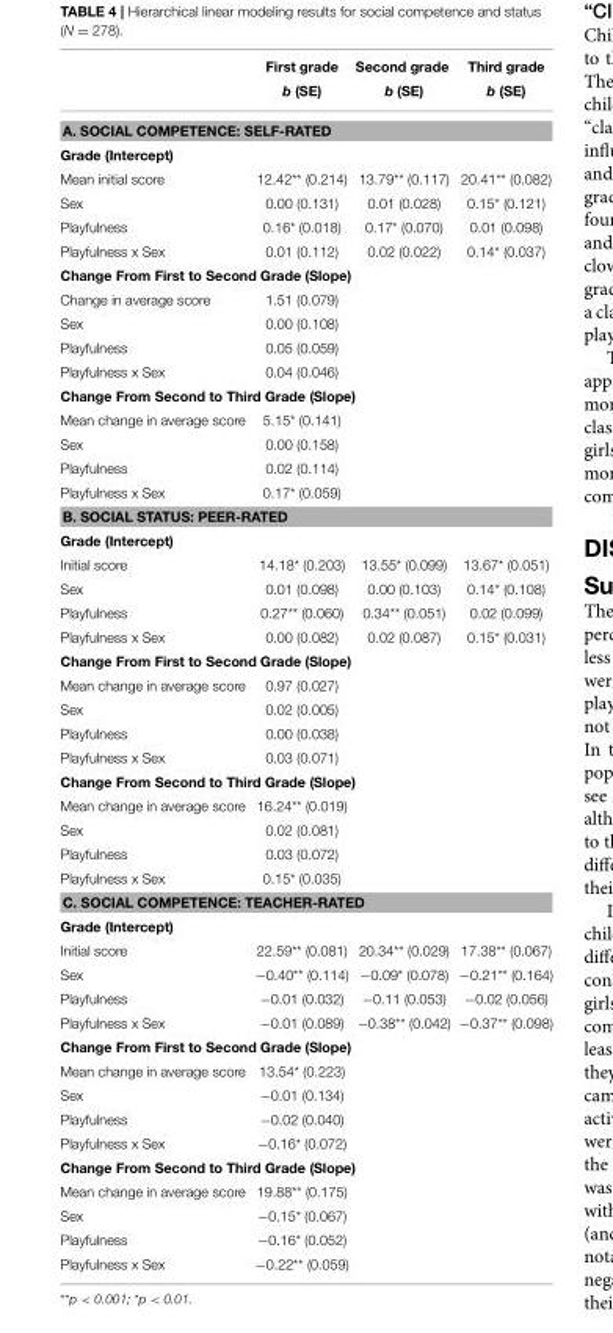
<table><thead><tr><td></td><td>First grade b (SE)</td><td>Second grade b (SE)</td><td>Third grade b (SE)</td></tr></thead><tbody><tr><td colspan="4">A. SOCIAL COMPETENCE: SELF-RATED</td></tr><tr><td colspan="4">Grade (Intercept)</td></tr><tr><td>Mean initial score</td><td>12.42** (0.214)</td><td>13.79** (0.117)</td><td>20.41** (0.082)</td></tr><tr><td>Sex</td><td>0.00 (0.131)</td><td>0.01 (0.028)</td><td>0.15* (0.121)</td></tr><tr><td>Playfulness</td><td>0.16* (0.018)</td><td>0.17* (0.070)</td><td>0.01 (0.098)</td></tr><tr><td>Playfulness x Sex</td><td>0.01 (0.112)</td><td>0.02 (0.022)</td><td>0.14* (0.037)</td></tr><tr><td colspan="4">Change From First to Second Grade (Slope)</td></tr><tr><td>Change in average score</td><td>1.51 (0.079)</td><td></td><td></td></tr><tr><td>Sex</td><td>0.00 (0.108)</td><td></td><td></td></tr><tr><td>Playfulness</td><td>0.05 (0.059)</td><td></td><td></td></tr><tr><td>Playfulness x Sex</td><td>0.04 (0.046)</td><td></td><td></td></tr><tr><td colspan="4">Change From Second to Third Grade (Slope)</td></tr><tr><td>Mean change in average score</td><td>5.15* (0.141)</td><td></td><td></td></tr><tr><td>Sex</td><td>0.00 (0.158)</td><td></td><td></td></tr><tr><td>Playfulness</td><td>0.02 (0.114)</td><td></td><td></td></tr><tr><td>Playfulness x Sex</td><td>0.17* (0.059)</td><td></td><td></td></tr><tr><td colspan="4">B. SOCIAL STATUS: PEER-RATED</td></tr><tr><td colspan="4">Grade (Intercept)</td></tr><tr><td>Initial score</td><td>14.18* (0.203)</td><td>13.55* (0.099)</td><td>13.67* (0.051)</td></tr><tr><td>Sex</td><td>0.01 (0.098)</td><td>0.00 (0.103)</td><td>0.14* (0.108)</td></tr><tr><td>Playfulness</td><td>0.27** (0.060)</td><td>0.34** (0.051)</td><td>0.02 (0.099)</td></tr><tr><td>Playfulness x Sex</td><td>0.00 (0.082)</td><td>0.02 (0.087)</td><td>0.15* (0.031)</td></tr><tr><td colspan="4">Change From First to Second Grade (Slope)</td></tr><tr><td>Mean change in average score</td><td>0.97 (0.027)</td><td></td><td></td></tr><tr><td>Sex</td><td>0.02 (0.005)</td><td></td><td></td></tr><tr><td>Playfulness</td><td>0.00 (0.038)</td><td></td><td></td></tr><tr><td>Playfulness x Sex</td><td>0.03 (0.071)</td><td></td><td></td></tr><tr><td colspan="4">Change From Second to Third Grade (Slope)</td></tr><tr><td>Mean change in average score</td><td>16.24** (0.019)</td><td></td><td></td></tr><tr><td>Sex</td><td>0.02 (0.081)</td><td></td><td></td></tr><tr><td>Playfulness</td><td>0.03 (0.072)</td><td></td><td></td></tr><tr><td>Playfulness x Sex</td><td>0.15* (0.035)</td><td></td><td></td></tr><tr><td colspan="4">C. SOCIAL COMPETENCE: TEACHER-RATED</td></tr><tr><td colspan="4">Grade (Intercept)</td></tr><tr><td>Initial score</td><td>22.59** (0.081)</td><td>20.34** (0.029)</td><td>17.38** (0.067)</td></tr><tr><td>Sex</td><td>−0.40** (0.114)</td><td>−0.09* (0.078)</td><td>−0.21** (0.164)</td></tr><tr><td>Playfulness</td><td>−0.01 (0.032)</td><td>−0.11 (0.053)</td><td>−0.02 (0.056)</td></tr><tr><td>Playfulness x Sex</td><td>−0.01 (0.089)</td><td>−0.38** (0.042)</td><td>−0.37** (0.098)</td></tr><tr><td colspan="4">Change From First to Second Grade (Slope)</td></tr><tr><td>Mean change in average score</td><td>13.54* (0.223)</td><td></td><td></td></tr><tr><td>Sex</td><td>−0.01 (0.134)</td><td></td><td></td></tr><tr><td>Playfulness</td><td>−0.02 (0.040)</td><td></td><td></td></tr><tr><td>Playfulness x Sex</td><td>−0.16* (0.072)</td><td></td><td></td></tr><tr><td colspan="4">Change From Second to Third Grade (Slope)</td></tr><tr><td>Mean change in average score</td><td>19.88** (0.175)</td><td></td><td></td></tr><tr><td>Sex</td><td>−0.15* (0.067)</td><td></td><td></td></tr><tr><td>Playfulness</td><td>−0.16* (0.052)</td><td></td><td></td></tr><tr><td>Playfulness x Sex</td><td>−0.22** (0.059)</td><td></td><td></td></tr></tbody></table>